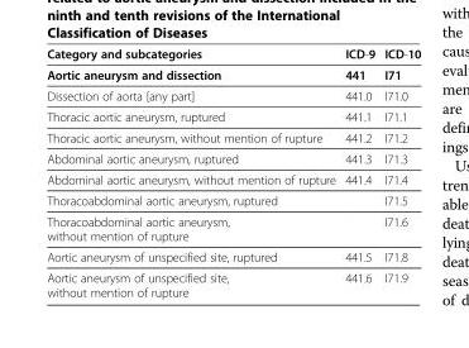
<table><thead><tr><td>Category and subcategories</td><td>ICD-9</td><td>ICD-10</td></tr></thead><tbody><tr><td>Aortic aneurysm and dissection</td><td>441</td><td>I71</td></tr><tr><td>Dissection of aorta [any part]</td><td>441.0</td><td>I71.0</td></tr><tr><td>Thoracic aortic aneurysm, ruptured</td><td>441.1</td><td>I71.1</td></tr><tr><td>Thoracic aortic aneurysm, without mention of rupture</td><td>441.2</td><td>I71.2</td></tr><tr><td>Abdominal aortic aneurysm, ruptured</td><td>441.3</td><td>I71.3</td></tr><tr><td>Abdominal aortic aneurysm, without mention of rupture</td><td>441.4</td><td>I71.4</td></tr><tr><td>Thoracoabdominal aortic aneurysm, ruptured</td><td></td><td>I71.5</td></tr><tr><td>Thoracoabdominal aortic aneurysm, without mention of rupture</td><td></td><td>I71.6</td></tr><tr><td>Aortic aneurysm of unspecified site, ruptured</td><td>441.5</td><td>I71.8</td></tr><tr><td>Aortic aneurysm of unspecified site, without mention of rupture</td><td>441.6</td><td>I71.9</td></tr></tbody></table>